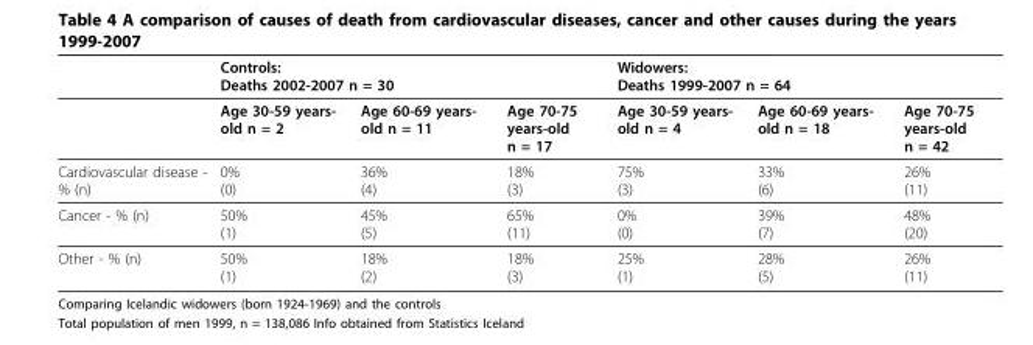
<table><thead><tr><td rowspan="2"></td><td colspan="3">Controls: Deaths 2002-2007 n = 30</td><td colspan="3">Widowers: Deaths 1999-2007 n = 64</td></tr><tr><td>Age 30-59 years- old n = 2</td><td>Age 60-69 years- old n = 11</td><td>Age 70-75 years-old n = 17</td><td>Age 30-59 years- old n = 4</td><td>Age 60-69 years- old n = 18</td><td>Age 70-75 years-old n = 42</td></tr></thead><tbody><tr><td>Cardiovascular disease - % (n)</td><td>0% (0)</td><td>36% (4)</td><td>18% (3)</td><td>75% (3)</td><td>33% (6)</td><td>26% (11)</td></tr><tr><td>Cancer - % (n)</td><td>50% (1)</td><td>45% (5)</td><td>65% (11)</td><td>0% (0)</td><td>39% (7)</td><td>48% (20)</td></tr><tr><td>Other - % (n)</td><td>50% (1)</td><td>18% (2)</td><td>18% (3)</td><td>25% (1)</td><td>28% (5)</td><td>26% (11)</td></tr></tbody></table>